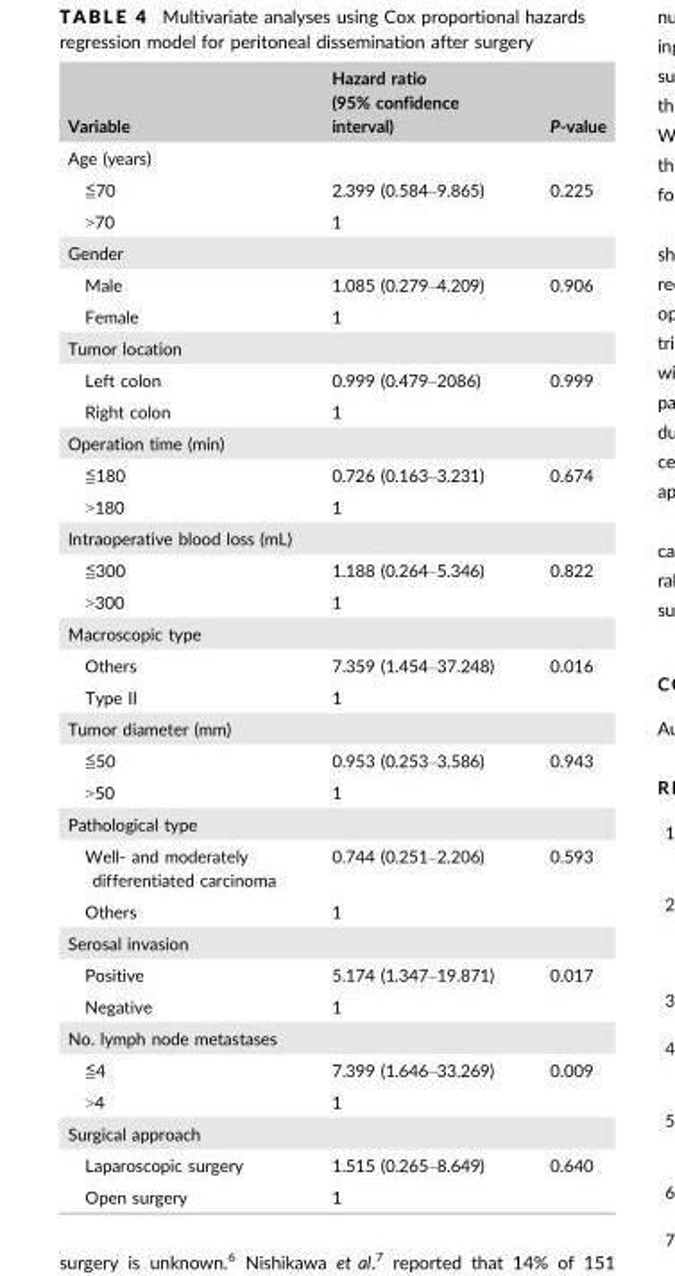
<table><thead><tr><td>Variable</td><td>Hazard ratio (95% confidence interval)</td><td>P-value</td></tr></thead><tbody><tr><td colspan="3">Age (years)</td></tr><tr><td>≦70</td><td>2.399 (0.584–9.865)</td><td rowspan="2">0.225</td></tr><tr><td>&gt;70</td><td>1</td></tr><tr><td colspan="3">Gender</td></tr><tr><td>Male</td><td>1.085 (0.279–4.209)</td><td rowspan="2">0.906</td></tr><tr><td>Female</td><td>1</td></tr><tr><td colspan="3">Tumor location</td></tr><tr><td>Left colon</td><td>0.999 (0.479–2086)</td><td rowspan="2">0.999</td></tr><tr><td>Right colon</td><td>1</td></tr><tr><td colspan="3">Operation time (min)</td></tr><tr><td>≦180</td><td>0.726 (0.163–3.231)</td><td rowspan="2">0.674</td></tr><tr><td>&gt;180</td><td>1</td></tr><tr><td colspan="3">Intraoperative blood loss (mL)</td></tr><tr><td>≦300</td><td>1.188 (0.264–5.346)</td><td rowspan="2">0.822</td></tr><tr><td>&gt;300</td><td>1</td></tr><tr><td colspan="3">Macroscopic type</td></tr><tr><td>Others</td><td>7.359 (1.454–37.248)</td><td rowspan="2">0.016</td></tr><tr><td>Type II</td><td>1</td></tr><tr><td colspan="3">Tumor diameter (mm)</td></tr><tr><td>≦50</td><td>0.953 (0.253–3.586)</td><td rowspan="2">0.943</td></tr><tr><td>&gt;50</td><td>1</td></tr><tr><td colspan="3">Pathological type</td></tr><tr><td>Well- and moderately differentiated carcinoma</td><td>0.744 (0.251–2.206)</td><td rowspan="2">0.593</td></tr><tr><td>Others</td><td>1</td></tr><tr><td colspan="3">Serosal invasion</td></tr><tr><td>Positive</td><td>5.174 (1.347–19.871)</td><td rowspan="2">0.017</td></tr><tr><td>Negative</td><td>1</td></tr><tr><td colspan="3">No. lymph node metastases</td></tr><tr><td>≦4</td><td>7.399 (1.646–33.269)</td><td rowspan="2">0.009</td></tr><tr><td>&gt;4</td><td>1</td></tr><tr><td colspan="3">Surgical approach</td></tr><tr><td>Laparoscopic surgery</td><td>1.515 (0.265–8.649)</td><td rowspan="2">0.640</td></tr><tr><td>Open surgery</td><td>1</td></tr></tbody></table>